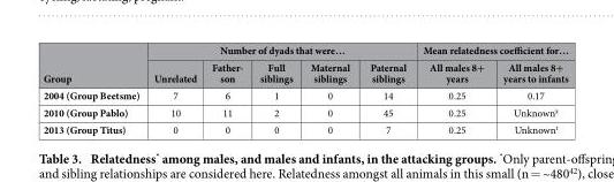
<table><thead><tr><td rowspan="2">Group</td><td colspan="5">Number of dyads that were…</td><td colspan="2">Mean relatedness coefficient for…</td></tr><tr><td>Unrelated</td><td>Father- son</td><td>Full siblings</td><td>Maternal siblings</td><td>Paternal siblings</td><td>All males 8+ years</td><td>All males 8+ years to infants</td></tr></thead><tbody><tr><td>2004 (Group Beetsme)</td><td>7</td><td>6</td><td>1</td><td>0</td><td>14</td><td>0.25</td><td>0.17</td></tr><tr><td>2010 (Group Pablo)</td><td>10</td><td>11</td><td>2</td><td>0</td><td>45</td><td>0.25</td><td>Unknown<sup>x</sup></td></tr><tr><td>2013 (Group Titus)</td><td>0</td><td>0</td><td>0</td><td>0</td><td>7</td><td>0.25</td><td>Unknown<sup>t</sup></td></tr></tbody></table>